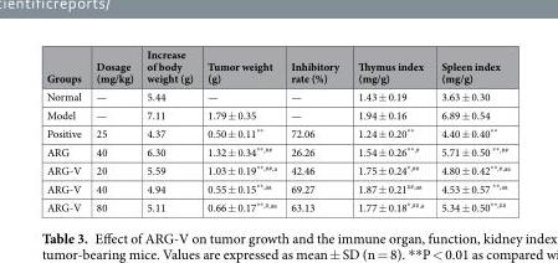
<table><thead><tr><td>Groups</td><td>Dosage (mg/kg)</td><td>Increase of body weight (g)</td><td>Tumor weight (g)</td><td>Inhibitory rate (%)</td><td>Thymus index (mg/g)</td><td>Spleen index (mg/g)</td></tr></thead><tbody><tr><td>Normal</td><td>—</td><td>5.44</td><td>—</td><td>—</td><td>1.43 ± 0.19</td><td>3.63 ± 0.30</td></tr><tr><td>Model</td><td>—</td><td>7.11</td><td>1.79 ± 0.35</td><td>—</td><td>1.94 ± 0.16</td><td>6.89 ± 0.54</td></tr><tr><td>Positive</td><td>25</td><td>4.37</td><td>0.50 ± 0.11**</td><td>72.06</td><td>1.24 ± 0.20**</td><td>4.40 ± 0.40**</td></tr><tr><td>ARG</td><td>40</td><td>6.30</td><td>1.32 ± 0.34<sup>**,##</sup></td><td>26.26</td><td>1.54 ± 0.26<sup>**,#</sup></td><td>5.71 ± 0.50 <sup>**,##</sup></td></tr><tr><td>ARG-V</td><td>20</td><td>5.59</td><td>1.03 ± 0.19<sup>**,##,a</sup></td><td>42.46</td><td>1.75 ± 0.24<sup>*,##</sup></td><td>4.80 ± 0.42<sup>**,#,aa</sup></td></tr><tr><td>ARG-V</td><td>40</td><td>4.94</td><td>0.55 ± 0.15<sup>**,aa</sup></td><td>69.27</td><td>1.87 ± 0.21<sup>##,aa</sup></td><td>4.53 ± 0.57 <sup>**,aa</sup></td></tr><tr><td>ARG-V</td><td>80</td><td>5.11</td><td>0.66 ± 0.17<sup>**,#,aa</sup></td><td>63.13</td><td>1.77 ± 0.18<sup>*,##,a</sup></td><td>5.34 ± 0.50<sup>**,##</sup></td></tr></tbody></table>